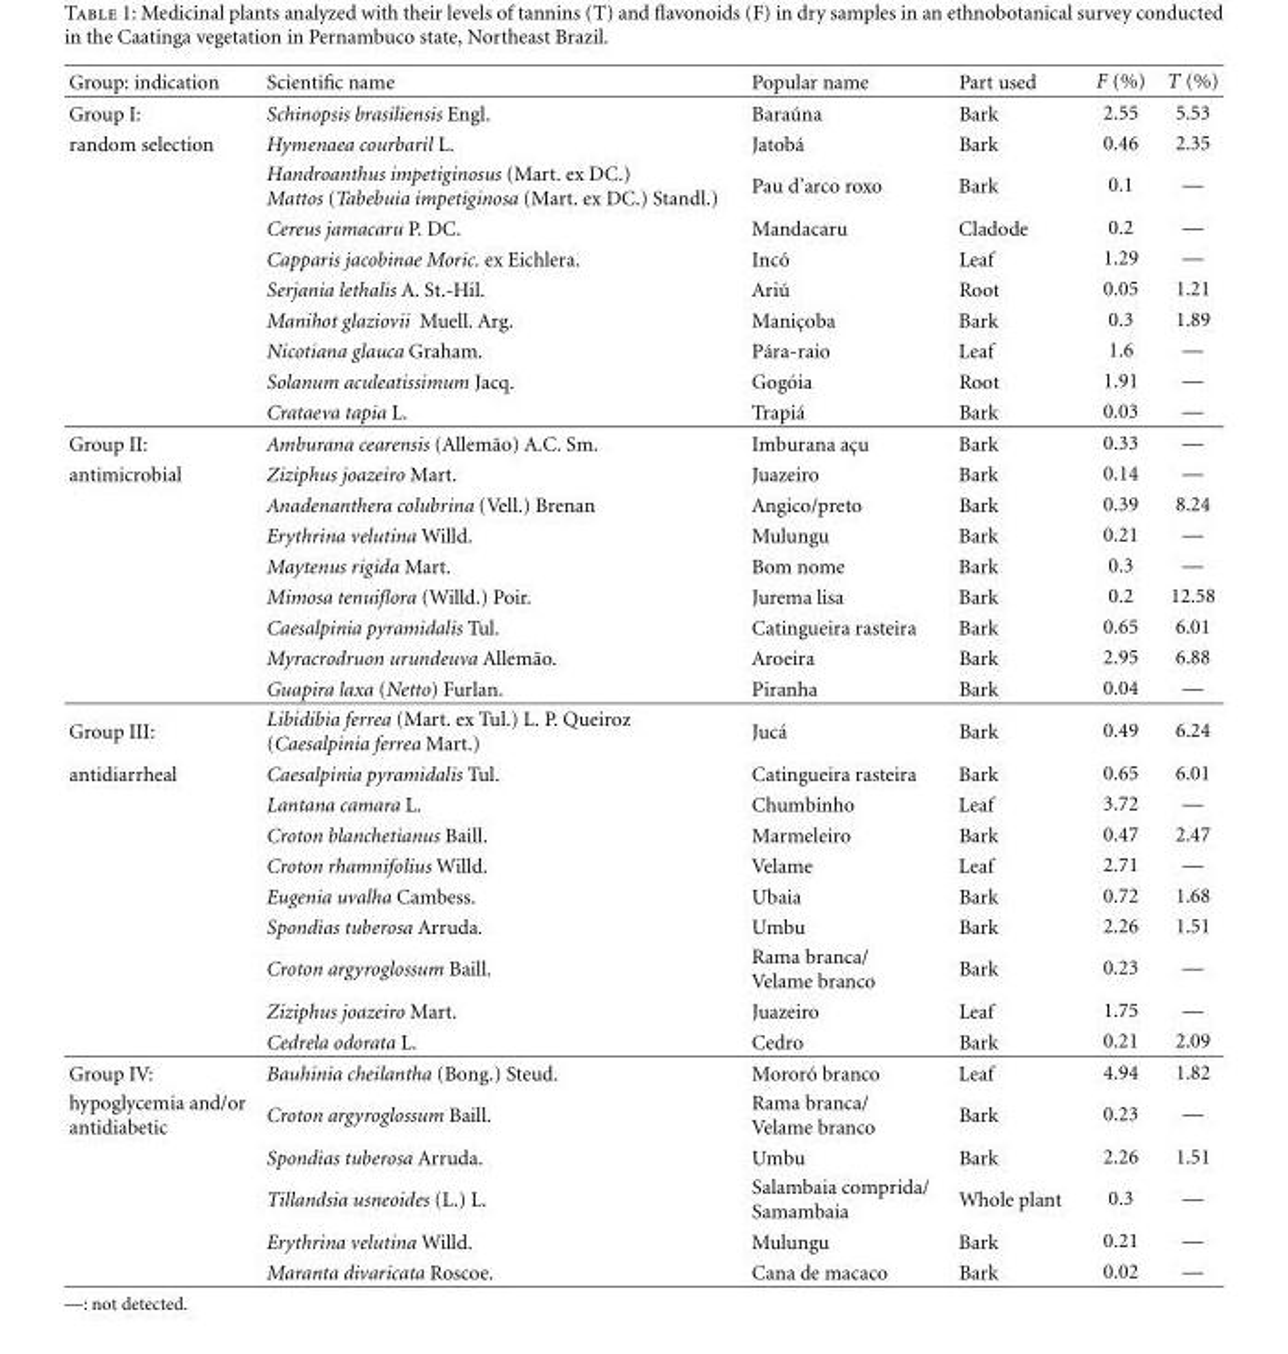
<table><thead><tr><td>Group: indication</td><td>Scientific name</td><td>Popular name</td><td>Part used</td><td>F (%)</td><td>T (%)</td></tr></thead><tbody><tr><td>Group I:</td><td>Schinopsis brasiliensis Engl.</td><td>Bara´una</td><td>Bark</td><td>2.55</td><td>5.53</td></tr><tr><td rowspan="9">random selection</td><td>Hymenaea courbaril L.</td><td>Jatob´a</td><td>Bark</td><td>0.46</td><td>2.35</td></tr><tr><td>Handroanthus impetiginosus (Mart. ex DC.) Mattos (Tabebuia impetiginosa (Mart. ex DC.) Standl.)</td><td>Pau d’arco roxo</td><td>Bark</td><td>0.1</td><td>—</td></tr><tr><td>Cereus jamacaru P. DC.</td><td>Mandacaru</td><td>Cladode</td><td>0.2</td><td>—</td></tr><tr><td>Capparis jacobinae Moric. ex Eichlera.</td><td>Inc´o</td><td>Leaf</td><td>1.29</td><td>—</td></tr><tr><td>Serjania lethalis A. St.-Hil.</td><td>Ari´u</td><td>Root</td><td>0.05</td><td>1.21</td></tr><tr><td>Manihot glaziovii Muell. Arg.</td><td>Manic¸oba</td><td>Bark</td><td>0.3</td><td>1.89</td></tr><tr><td>Nicotiana glauca Graham.</td><td>P´ara-raio</td><td>Leaf</td><td>1.6</td><td>—</td></tr><tr><td>Solanum aculeatissimum Jacq.</td><td>Gog´oia</td><td>Root</td><td>1.91</td><td>—</td></tr><tr><td>Crataeva tapia L.</td><td>Trapi´a</td><td>Bark</td><td>0.03</td><td>—</td></tr><tr><td>Group II:</td><td>Amburana cearensis (Allem˜ao) A.C. Sm.</td><td>Imburana ac¸u</td><td>Bark</td><td>0.33</td><td>—</td></tr><tr><td rowspan="8">antimicrobial</td><td>Ziziphus joazeiro Mart.</td><td>Juazeiro</td><td>Bark</td><td>0.14</td><td>—</td></tr><tr><td>Anadenanthera colubrina (Vell.) Brenan</td><td>Angico/preto</td><td>Bark</td><td>0.39</td><td>8.24</td></tr><tr><td>Erythrina velutina Willd.</td><td>Mulungu</td><td>Bark</td><td>0.21</td><td>—</td></tr><tr><td>Maytenus rigida Mart.</td><td>Bom nome</td><td>Bark</td><td>0.3</td><td>—</td></tr><tr><td>Mimosa tenuiflora (Willd.) Poir.</td><td>Jurema lisa</td><td>Bark</td><td>0.2</td><td>12.58</td></tr><tr><td>Caesalpinia pyramidalis Tul.</td><td>Catingueira rasteira</td><td>Bark</td><td>0.65</td><td>6.01</td></tr><tr><td>Myracrodruon urundeuva Allem˜ao.</td><td>Aroeira</td><td>Bark</td><td>2.95</td><td>6.88</td></tr><tr><td>Guapira laxa (Netto) Furlan.</td><td>Piranha</td><td>Bark</td><td>0.04</td><td>—</td></tr><tr><td>Group III:</td><td>Libidibia ferrea (Mart. ex Tul.) L. P. Queiroz (Caesalpinia ferrea Mart.)</td><td>Juc´a</td><td>Bark</td><td>0.49</td><td>6.24</td></tr><tr><td rowspan="9">antidiarrheal</td><td>Caesalpinia pyramidalis Tul.</td><td>Catingueira rasteira</td><td>Bark</td><td>0.65</td><td>6.01</td></tr><tr><td>Lantana camara L.</td><td>Chumbinho</td><td>Leaf</td><td>3.72</td><td>—</td></tr><tr><td>Croton blanchetianus Baill.</td><td>Marmeleiro</td><td>Bark</td><td>0.47</td><td>2.47</td></tr><tr><td>Croton rhamnifolius Willd.</td><td>Velame</td><td>Leaf</td><td>2.71</td><td>—</td></tr><tr><td>Eugenia uvalha Cambess.</td><td>Ubaia</td><td>Bark</td><td>0.72</td><td>1.68</td></tr><tr><td>Spondias tuberosa Arruda.</td><td>Umbu</td><td>Bark</td><td>2.26</td><td>1.51</td></tr><tr><td>Croton argyroglossum Baill.</td><td>Rama branca/ Velame branco</td><td>Bark</td><td>0.23</td><td>—</td></tr><tr><td>Ziziphus joazeiro Mart.</td><td>Juazeiro</td><td>Leaf</td><td>1.75</td><td>—</td></tr><tr><td>Cedrela odorata L.</td><td>Cedro</td><td>Bark</td><td>0.21</td><td>2.09</td></tr><tr><td>Group IV:</td><td>Bauhinia cheilantha (Bong.) Steud.</td><td>Moror´o branco</td><td>Leaf</td><td>4.94</td><td>1.82</td></tr><tr><td rowspan="5">hypoglycemia and/or antidiabetic</td><td>Croton argyroglossum Baill.</td><td>Rama branca/ Velame branco</td><td>Bark</td><td>0.23</td><td>—</td></tr><tr><td>Spondias tuberosa Arruda.</td><td>Umbu</td><td>Bark</td><td>2.26</td><td>1.51</td></tr><tr><td>Tillandsia usneoides (L.) L.</td><td>Salambaia comprida/ Samambaia</td><td>Whole plant</td><td>0.3</td><td>—</td></tr><tr><td>Erythrina velutina Willd.</td><td>Mulungu</td><td>Bark</td><td>0.21</td><td>—</td></tr><tr><td>Maranta divaricata Roscoe.</td><td>Cana de macaco</td><td>Bark</td><td>0.02</td><td>—</td></tr></tbody></table>